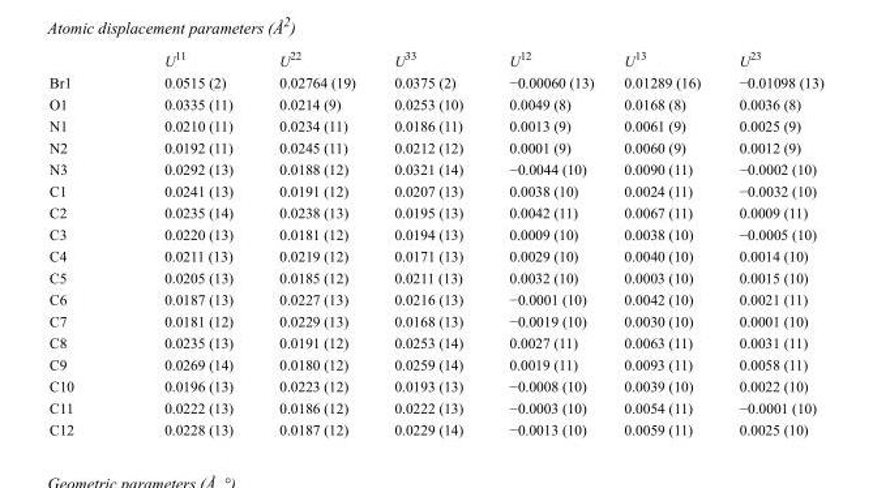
<table><thead><tr><td></td><td>U<sup>11</sup></td><td>U<sup>22</sup></td><td>U<sup>33</sup></td><td>U<sup>12</sup></td><td>U<sup>13</sup></td><td>U<sup>23</sup></td></tr></thead><tbody><tr><td>Br1</td><td>0.0515 (2)</td><td>0.02764 (19)</td><td>0.0375 (2)</td><td>−0.00060 (13)</td><td>0.01289 (16)</td><td>−0.01098 (13)</td></tr><tr><td>O1</td><td>0.0335 (11)</td><td>0.0214 (9)</td><td>0.0253 (10)</td><td>0.0049 (8)</td><td>0.0168 (8)</td><td>0.0036 (8)</td></tr><tr><td>N1</td><td>0.0210 (11)</td><td>0.0234 (11)</td><td>0.0186 (11)</td><td>0.0013 (9)</td><td>0.0061 (9)</td><td>0.0025 (9)</td></tr><tr><td>N2</td><td>0.0192 (11)</td><td>0.0245 (11)</td><td>0.0212 (12)</td><td>0.0001 (9)</td><td>0.0060 (9)</td><td>0.0012 (9)</td></tr><tr><td>N3</td><td>0.0292 (13)</td><td>0.0188 (12)</td><td>0.0321 (14)</td><td>−0.0044 (10)</td><td>0.0090 (11)</td><td>−0.0002 (10)</td></tr><tr><td>C1</td><td>0.0241 (13)</td><td>0.0191 (12)</td><td>0.0207 (13)</td><td>0.0038 (10)</td><td>0.0024 (11)</td><td>−0.0032 (10)</td></tr><tr><td>C2</td><td>0.0235 (14)</td><td>0.0238 (13)</td><td>0.0195 (13)</td><td>0.0042 (11)</td><td>0.0067 (11)</td><td>0.0009 (11)</td></tr><tr><td>C3</td><td>0.0220 (13)</td><td>0.0181 (12)</td><td>0.0194 (13)</td><td>0.0009 (10)</td><td>0.0038 (10)</td><td>−0.0005 (10)</td></tr><tr><td>C4</td><td>0.0211 (13)</td><td>0.0219 (12)</td><td>0.0171 (13)</td><td>0.0029 (10)</td><td>0.0040 (10)</td><td>0.0014 (10)</td></tr><tr><td>C5</td><td>0.0205 (13)</td><td>0.0185 (12)</td><td>0.0211 (13)</td><td>0.0032 (10)</td><td>0.0003 (10)</td><td>0.0015 (10)</td></tr><tr><td>C6</td><td>0.0187 (13)</td><td>0.0227 (13)</td><td>0.0216 (13)</td><td>−0.0001 (10)</td><td>0.0042 (10)</td><td>0.0021 (11)</td></tr><tr><td>C7</td><td>0.0181 (12)</td><td>0.0229 (13)</td><td>0.0168 (13)</td><td>−0.0019 (10)</td><td>0.0030 (10)</td><td>0.0001 (10)</td></tr><tr><td>C8</td><td>0.0235 (13)</td><td>0.0191 (12)</td><td>0.0253 (14)</td><td>0.0027 (11)</td><td>0.0063 (11)</td><td>0.0031 (11)</td></tr><tr><td>C9</td><td>0.0269 (14)</td><td>0.0180 (12)</td><td>0.0259 (14)</td><td>0.0019 (11)</td><td>0.0093 (11)</td><td>0.0058 (11)</td></tr><tr><td>C10</td><td>0.0196 (13)</td><td>0.0223 (12)</td><td>0.0193 (13)</td><td>−0.0008 (10)</td><td>0.0039 (10)</td><td>0.0022 (10)</td></tr><tr><td>C11</td><td>0.0222 (13)</td><td>0.0186 (12)</td><td>0.0222 (13)</td><td>−0.0003 (10)</td><td>0.0054 (11)</td><td>−0.0001 (10)</td></tr><tr><td>C12</td><td>0.0228 (13)</td><td>0.0187 (12)</td><td>0.0229 (14)</td><td>−0.0013 (10)</td><td>0.0059 (11)</td><td>0.0025 (10)</td></tr></tbody></table>